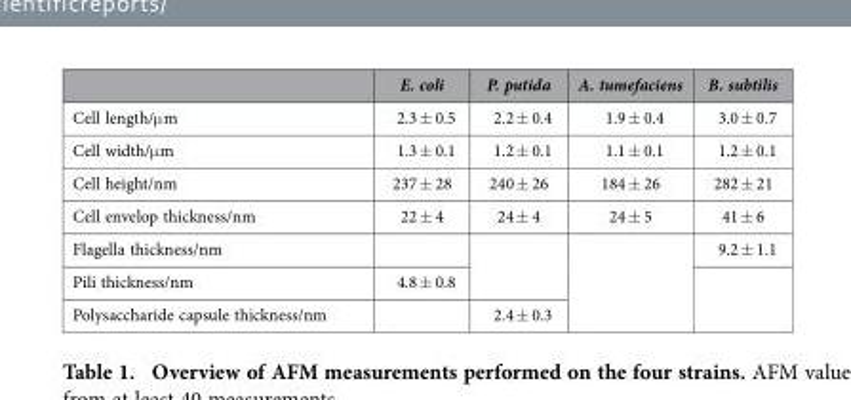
<table><thead><tr><td></td><td>E. coli</td><td>P. putida</td><td>A. tumefaciens</td><td>B. subtilis</td></tr></thead><tbody><tr><td>Cell length/μ m</td><td>2.3 ± 0.5</td><td>2.2 ± 0.4</td><td>1.9 ± 0.4</td><td>3.0 ± 0.7</td></tr><tr><td>Cell width/μ m</td><td>1.3 ± 0.1</td><td>1.2 ± 0.1</td><td>1.1 ± 0.1</td><td>1.2 ± 0.1</td></tr><tr><td>Cell height/nm</td><td>237 ± 28</td><td>240 ± 26</td><td>184 ± 26</td><td>282 ± 21</td></tr><tr><td>Cell envelop thickness/nm</td><td>22 ± 4</td><td>24 ± 4</td><td>24 ± 5</td><td>41 ± 6</td></tr><tr><td>Flagella thickness/nm</td><td></td><td rowspan="2"></td><td rowspan="3"></td><td>9.2 ± 1.1</td></tr><tr><td>Pili thickness/nm</td><td>4.8 ± 0.8</td><td rowspan="2"></td></tr><tr><td>Polysaccharide capsule thickness/nm</td><td></td><td>2.4 ± 0.3</td></tr></tbody></table>